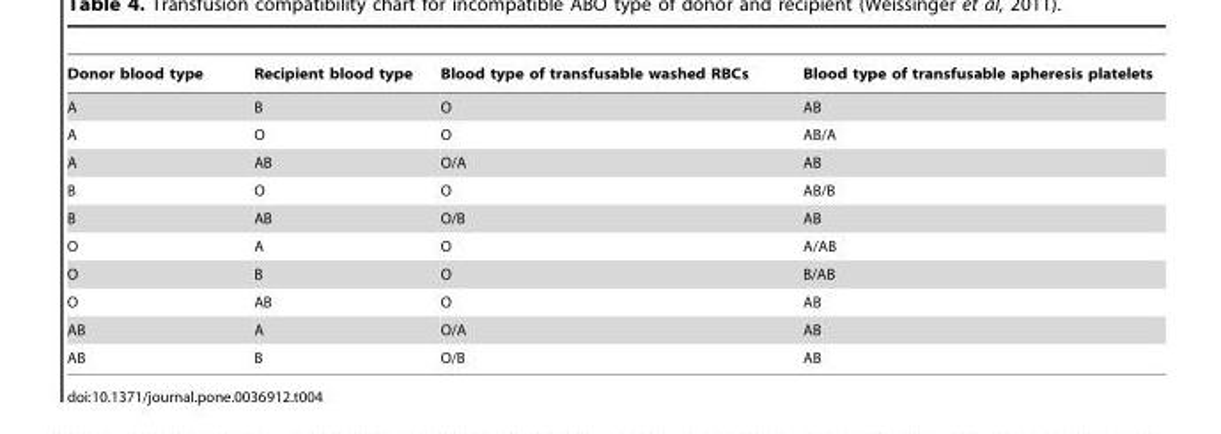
<table><thead><tr><td>Donor blood type</td><td>Recipient blood type</td><td>Blood type of transfusable washed RBCs</td><td>Blood type of transfusable apheresis platelets</td></tr></thead><tbody><tr><td>A</td><td>B</td><td>O</td><td>AB</td></tr><tr><td>A</td><td>O</td><td>O</td><td>AB/A</td></tr><tr><td>A</td><td>AB</td><td>O/A</td><td>AB</td></tr><tr><td>B</td><td>O</td><td>O</td><td>AB/B</td></tr><tr><td>B</td><td>AB</td><td>O/B</td><td>AB</td></tr><tr><td>O</td><td>A</td><td>O</td><td>A/AB</td></tr><tr><td>O</td><td>B</td><td>O</td><td>B/AB</td></tr><tr><td>O</td><td>AB</td><td>O</td><td>AB</td></tr><tr><td>AB</td><td>A</td><td>O/A</td><td>AB</td></tr><tr><td>AB</td><td>B</td><td>O/B</td><td>AB</td></tr></tbody></table>